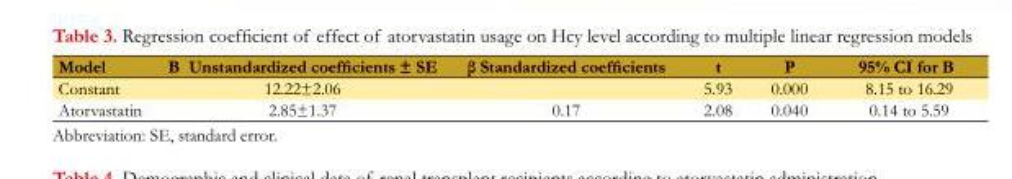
<table><tbody><tr><td>Model</td><td>B Unstandardized coefficients ± SE</td><td>β Standardized coefficients</td><td>t</td><td>P</td><td>95% CI for B</td></tr><tr><td>Constant</td><td>12.22±2.06</td><td></td><td>5.93</td><td>0.000</td><td>8.15 to 16.29</td></tr><tr><td>Atorvastatin</td><td>2.85±1.37</td><td>0.17</td><td>2.08</td><td>0.040</td><td>0.14 to 5.59</td></tr></tbody></table>